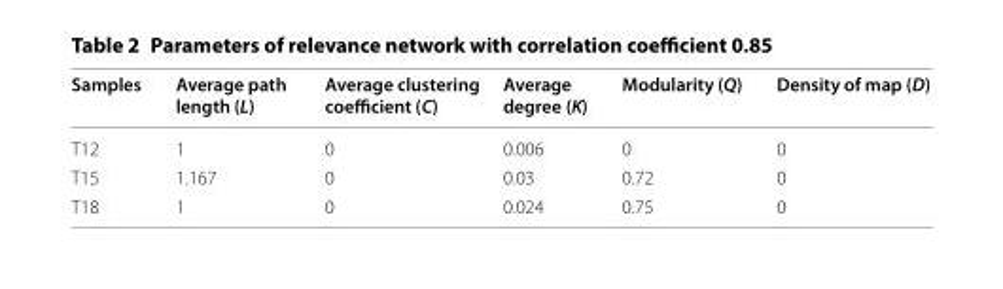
<table><thead><tr><td>Samples</td><td>Average path length (L)</td><td>Average clustering coefficient (C)</td><td>Average degree (K)</td><td>Modularity (Q)</td><td>Density of map (D)</td></tr></thead><tbody><tr><td>T12</td><td>1</td><td>0</td><td>0.006</td><td>0</td><td>0</td></tr><tr><td>T15</td><td>1.167</td><td>0</td><td>0.03</td><td>0.72</td><td>0</td></tr><tr><td>T18</td><td>1</td><td>0</td><td>0.024</td><td>0.75</td><td>0</td></tr></tbody></table>